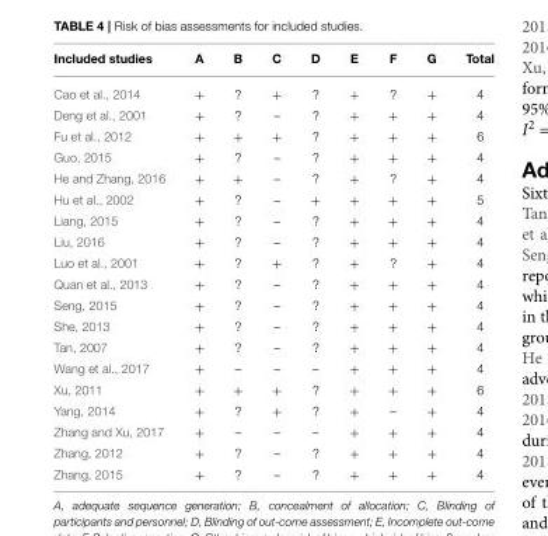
<table><thead><tr><td>Included studies</td><td>A</td><td>B</td><td>C</td><td>D</td><td>E</td><td>F</td><td>G</td><td>Total</td></tr></thead><tbody><tr><td>Cao et al., 2014</td><td>+</td><td>?</td><td>+</td><td>?</td><td>+</td><td>?</td><td>+</td><td>4</td></tr><tr><td>Deng et al., 2001</td><td>+</td><td>?</td><td>–</td><td>?</td><td>+</td><td>+</td><td>+</td><td>4</td></tr><tr><td>Fu et al., 2012</td><td>+</td><td>+</td><td>+</td><td>?</td><td>+</td><td>+</td><td>+</td><td>6</td></tr><tr><td>Guo, 2015</td><td>+</td><td>?</td><td>–</td><td>?</td><td>+</td><td>+</td><td>+</td><td>4</td></tr><tr><td>He and Zhang, 2016</td><td>+</td><td>+</td><td>–</td><td>?</td><td>+</td><td>?</td><td>+</td><td>4</td></tr><tr><td>Hu et al., 2002</td><td>+</td><td>?</td><td>–</td><td>+</td><td>+</td><td>+</td><td>+</td><td>5</td></tr><tr><td>Liang, 2015</td><td>+</td><td>?</td><td>–</td><td>?</td><td>+</td><td>+</td><td>+</td><td>4</td></tr><tr><td>Liu, 2016</td><td>+</td><td>?</td><td>–</td><td>?</td><td>+</td><td>+</td><td>+</td><td>4</td></tr><tr><td>Luo et al., 2001</td><td>+</td><td>?</td><td>+</td><td>?</td><td>+</td><td>?</td><td>+</td><td>4</td></tr><tr><td>Quan et al., 2013</td><td>+</td><td>?</td><td>–</td><td>?</td><td>+</td><td>+</td><td>+</td><td>4</td></tr><tr><td>Seng, 2015</td><td>+</td><td>?</td><td>–</td><td>?</td><td>+</td><td>+</td><td>+</td><td>4</td></tr><tr><td>She, 2013</td><td>+</td><td>?</td><td>–</td><td>?</td><td>+</td><td>+</td><td>+</td><td>4</td></tr><tr><td>Tan, 2007</td><td>+</td><td>?</td><td>–</td><td>?</td><td>+</td><td>+</td><td>+</td><td>4</td></tr><tr><td>Wang et al., 2017</td><td>+</td><td>–</td><td>–</td><td>–</td><td>+</td><td>+</td><td>+</td><td>4</td></tr><tr><td>Xu, 2011</td><td>+</td><td>+</td><td>+</td><td>?</td><td>+</td><td>+</td><td>+</td><td>6</td></tr><tr><td>Yang, 2014</td><td>+</td><td>?</td><td>+</td><td>?</td><td>+</td><td>–</td><td>+</td><td>4</td></tr><tr><td>Zhang and Xu, 2017</td><td>+</td><td>–</td><td>–</td><td>–</td><td>+</td><td>+</td><td>+</td><td>4</td></tr><tr><td>Zhang, 2012</td><td>+</td><td>?</td><td>–</td><td>?</td><td>+</td><td>+</td><td>+</td><td>4</td></tr><tr><td>Zhang, 2015</td><td>+</td><td>?</td><td>–</td><td>?</td><td>+</td><td>+</td><td>+</td><td>4</td></tr></tbody></table>